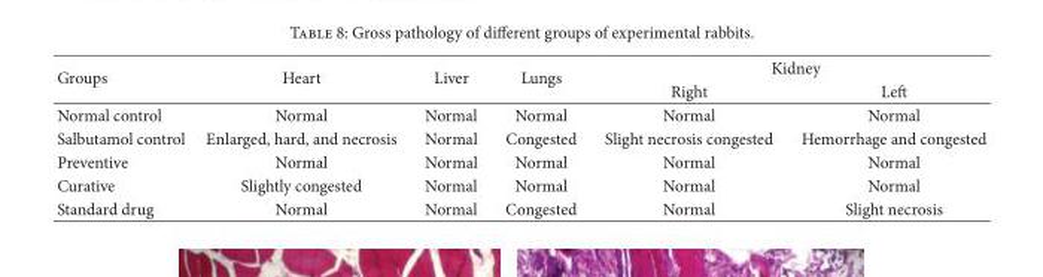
<table><thead><tr><td rowspan="2">Groups</td><td rowspan="2">Heart</td><td rowspan="2">Liver</td><td rowspan="2">Lungs</td><td colspan="2">Kidney</td></tr><tr><td>Right</td><td>Left</td></tr></thead><tbody><tr><td>Normal control</td><td>Normal</td><td>Normal</td><td>Normal</td><td>Normal</td><td>Normal</td></tr><tr><td>Salbutamol control</td><td>Enlarged, hard, and necrosis</td><td>Normal</td><td>Congested</td><td>Slight necrosis congested</td><td>Hemorrhage and congested</td></tr><tr><td>Preventive</td><td>Normal</td><td>Normal</td><td>Normal</td><td>Normal</td><td>Normal</td></tr><tr><td>Curative</td><td>Slightly congested</td><td>Normal</td><td>Normal</td><td>Normal</td><td>Normal</td></tr><tr><td>Standard drug</td><td>Normal</td><td>Normal</td><td>Congested</td><td>Normal</td><td>Slight necrosis</td></tr></tbody></table>